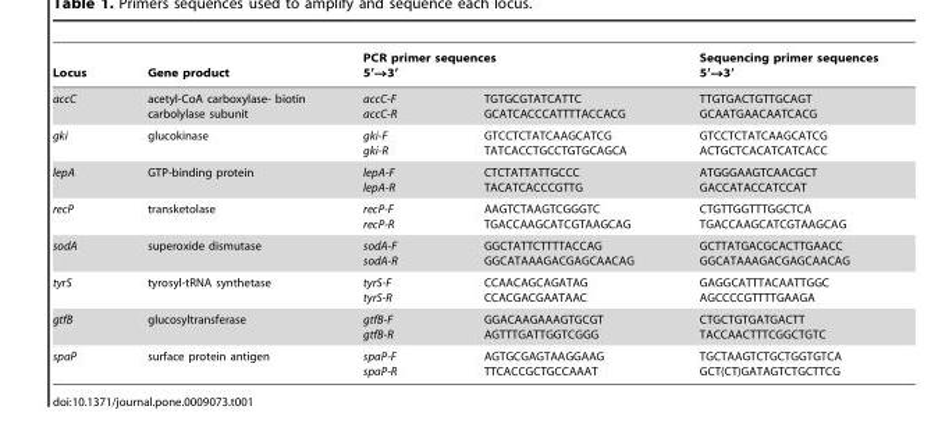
<table><thead><tr><td rowspan="2">Locus accC</td><td rowspan="2">Gene product acetyl-CoA carboxylase- biotin carbolylase subunit</td><td colspan="2">PCR primer sequences 5′→3′</td><td rowspan="2">Sequencing primer sequences 5′→3′ TTGTGACTGTTGCAGT GCAATGAACAATCACG</td></tr><tr><td>accC-F accC-R</td><td>TGTGCGTATCATTC GCATCACCCATTTTACCACG</td></tr></thead><tbody><tr><td>gki</td><td>glucokinase</td><td>gki-F gki-R</td><td>GTCCTCTATCAAGCATCG TATCACCTGCCTGTGCAGCA</td><td>GTCCTCTATCAAGCATCG ACTGCTCACATCATCACC</td></tr><tr><td>lepA</td><td>GTP-binding protein</td><td>lepA-F lepA-R</td><td>CTCTATTATTGCCC TACATCACCCGTTG</td><td>ATGGGAAGTCAACGCT GACCATACCATCCAT</td></tr><tr><td>recP</td><td>transketolase</td><td>recP-F recP-R</td><td>AAGTCTAAGTCGGGTC TGACCAAGCATCGTAAGCAG</td><td>CTGTTGGTTTGGCTCA TGACCAAGCATCGTAAGCAG</td></tr><tr><td>sodA</td><td>superoxide dismutase</td><td>sodA-F sodA-R</td><td>GGCTATTCTTTTACCAG GGCATAAAGACGAGCAACAG</td><td>GCTTATGACGCACTTGAACC GGCATAAAGACGAGCAACAG</td></tr><tr><td>tyrS</td><td>tyrosyl-tRNA synthetase</td><td>tyrS-F tyrS-R</td><td>CCAACAGCAGATAG CCACGACGAATAAC</td><td>GAGGCATTTACAATTGGC AGCCCCGTTTTGAAGA</td></tr><tr><td>gtfB</td><td>glucosyltransferase</td><td>gtfB-F gtfB-R</td><td>GGACAAGAAAGTGCGT AGTTTGATTGGTCGGG</td><td>CTGCTGTGATGACTT TACCAACTTTCGGCTGTC</td></tr><tr><td>spaP</td><td>surface protein antigen</td><td>spaP-F spaP-R</td><td>AGTGCGAGTAAGGAAG TTCACCGCTGCCAAAT</td><td>TGCTAAGTCTGCTGGTGTCA GCT(CT)GATAGTCTGCTTCG</td></tr></tbody></table>